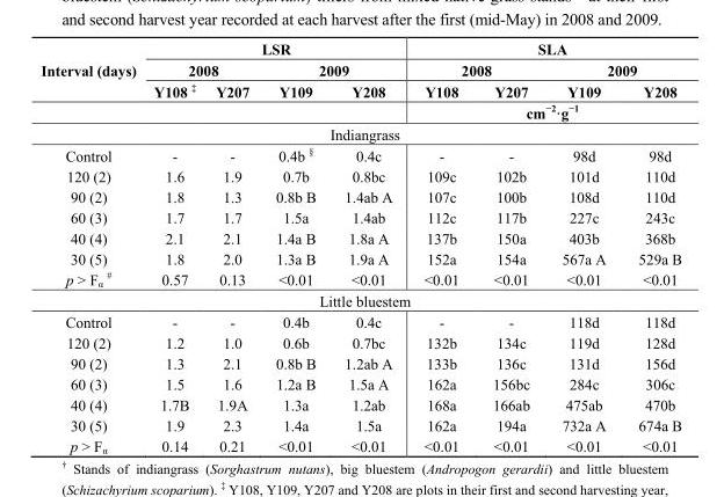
<table><thead><tr><td rowspan="4">Interval (days)</td><td colspan="4">LSR</td><td colspan="4">SLA</td></tr><tr><td colspan="2">2008</td><td colspan="2">2009</td><td colspan="2">2008</td><td colspan="2">2009</td></tr><tr><td rowspan="2">Y108 <sup>‡</sup></td><td rowspan="2">Y207</td><td rowspan="2">Y109</td><td rowspan="2">Y208</td><td>Y108</td><td>Y207</td><td>Y109</td><td>Y208</td></tr><tr><td colspan="4">cm<sup>−2</sup>·g<sup>−1</sup></td></tr></thead><tbody><tr><td colspan="9">Indiangrass</td></tr><tr><td>Control</td><td>-</td><td>-</td><td>0.4b <sup>§</sup></td><td>0.4c</td><td>-</td><td>-</td><td>98d</td><td>98d</td></tr><tr><td>120 (2)</td><td>1.6</td><td>1.9</td><td>0.7b</td><td>0.8bc</td><td>109c</td><td>102b</td><td>101d</td><td>110d</td></tr><tr><td>90 (2)</td><td>1.8</td><td>1.3</td><td>0.8b B</td><td>1.4ab A</td><td>107c</td><td>100b</td><td>108d</td><td>110d</td></tr><tr><td>60 (3)</td><td>1.7</td><td>1.7</td><td>1.5a</td><td>1.4ab</td><td>112c</td><td>117b</td><td>227c</td><td>243c</td></tr><tr><td>40 (4)</td><td>2.1</td><td>2.1</td><td>1.4a B</td><td>1.8a A</td><td>137b</td><td>150a</td><td>403b</td><td>368b</td></tr><tr><td>30 (5)</td><td>1.8</td><td>2.0</td><td>1.3a B</td><td>1.9a A</td><td>152a</td><td>154a</td><td>567a A</td><td>529a B</td></tr><tr><td>p &gt; F<sub>α</sub> <sup>#</sup></td><td>0.57</td><td>0.13</td><td>&lt;0.01</td><td>&lt;0.01</td><td>&lt;0.01</td><td>&lt;0.01</td><td>&lt;0.01</td><td>&lt;0.01</td></tr><tr><td colspan="9">Little bluestem</td></tr><tr><td>Control</td><td>-</td><td>-</td><td>0.4b</td><td>0.4c</td><td>-</td><td>-</td><td>118d</td><td>118d</td></tr><tr><td>120 (2)</td><td>1.2</td><td>1.0</td><td>0.6b</td><td>0.7bc</td><td>132b</td><td>134c</td><td>119d</td><td>128d</td></tr><tr><td>90 (2)</td><td>1.3</td><td>2.1</td><td>0.8b B</td><td>1.2ab A</td><td>133b</td><td>136c</td><td>131d</td><td>156d</td></tr><tr><td>60 (3)</td><td>1.5</td><td>1.6</td><td>1.2a B</td><td>1.5a A</td><td>162a</td><td>156bc</td><td>284c</td><td>306c</td></tr><tr><td>40 (4)</td><td>1.7B</td><td>1.9A</td><td>1.3a</td><td>1.2ab</td><td>168a</td><td>166ab</td><td>475ab</td><td>470b</td></tr><tr><td>30 (5)</td><td>1.9</td><td>2.3</td><td>1.4a</td><td>1.5a</td><td>162a</td><td>194a</td><td>732a A</td><td>674a B</td></tr><tr><td>p &gt; F<sub>α</sub></td><td>0.14</td><td>0.21</td><td>&lt;0.01</td><td>&lt;0.01</td><td>&lt;0.01</td><td>&lt;0.01</td><td>&lt;0.01</td><td>&lt;0.01</td></tr></tbody></table>